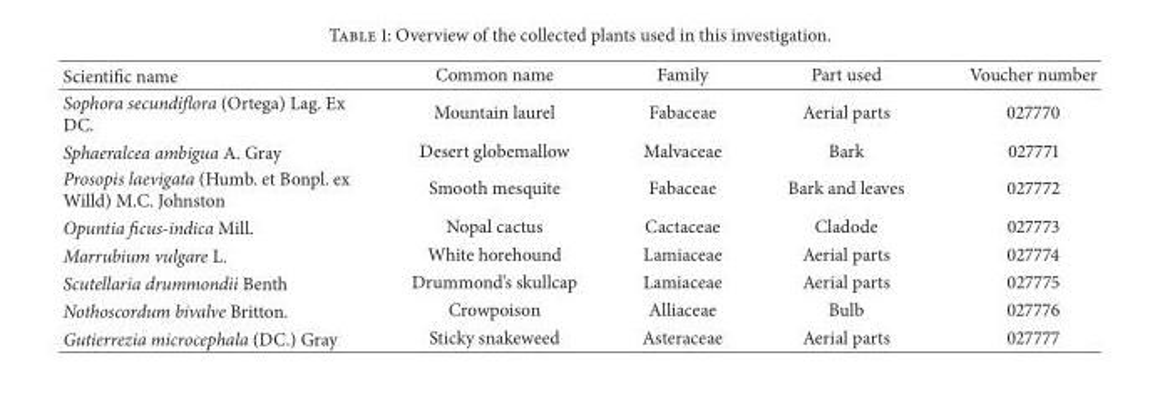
<table><thead><tr><td>Scientific name</td><td>Common name</td><td>Family</td><td>Part used</td><td>Voucher number</td></tr></thead><tbody><tr><td>Sophora secundiflora (Ortega) Lag. Ex DC.</td><td>Mountain laurel</td><td>Fabaceae</td><td>Aerial parts</td><td>027770</td></tr><tr><td>Sphaeralcea ambigua A. Gray</td><td>Desert globemallow</td><td>Malvaceae</td><td>Bark</td><td>027771</td></tr><tr><td>Prosopis laevigata (Humb. et Bonpl. ex Willd) M.C. Johnston</td><td>Smooth mesquite</td><td>Fabaceae</td><td>Bark and leaves</td><td>027772</td></tr><tr><td>Opuntia ficus-indica Mill.</td><td>Nopal cactus</td><td>Cactaceae</td><td>Cladode</td><td>027773</td></tr><tr><td>Marrubium vulgare L.</td><td>White horehound</td><td>Lamiaceae</td><td>Aerial parts</td><td>027774</td></tr><tr><td>Scutellaria drummondii Benth</td><td>Drummond’s skullcap</td><td>Lamiaceae</td><td>Aerial parts</td><td>027775</td></tr><tr><td>Nothoscordum bivalve Britton.</td><td>Crowpoison</td><td>Alliaceae</td><td>Bulb</td><td>027776</td></tr><tr><td>Gutierrezia microcephala (DC.) Gray</td><td>Sticky snakeweed</td><td>Asteraceae</td><td>Aerial parts</td><td>027777</td></tr></tbody></table>